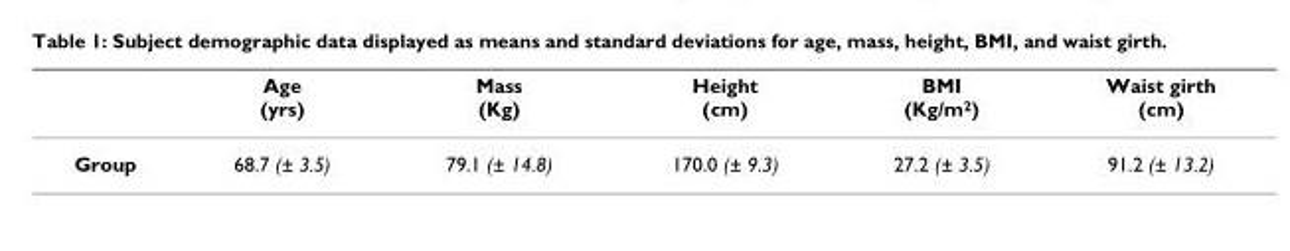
<table><thead><tr><td></td><td>Age (yrs)</td><td>Mass (Kg)</td><td>Height (cm)</td><td>BMI (Kg/m<sup>2</sup>)</td><td>Waist girth (cm)</td></tr></thead><tbody><tr><td>Group</td><td>68.7 (± 3.5)</td><td>79.1 (± 14.8)</td><td>170.0 (± 9.3)</td><td>27.2 (± 3.5)</td><td>91.2 (± 13.2)</td></tr></tbody></table>